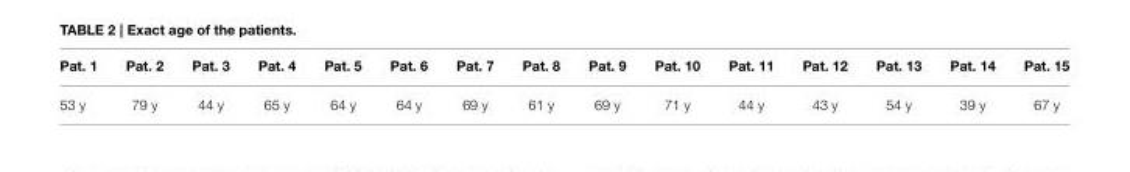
<table><thead><tr><td>Pat. 1</td><td>Pat. 2</td><td>Pat. 3</td><td>Pat. 4</td><td>Pat. 5</td><td>Pat. 6</td><td>Pat. 7</td><td>Pat. 8</td><td>Pat. 9</td><td>Pat. 10</td><td>Pat. 11</td><td>Pat. 12</td><td>Pat. 13</td><td>Pat. 14</td><td>Pat. 15</td></tr></thead><tbody><tr><td>53 y</td><td>79 y</td><td>44 y</td><td>65 y</td><td>64 y</td><td>64 y</td><td>69 y</td><td>61 y</td><td>69 y</td><td>71 y</td><td>44 y</td><td>43 y</td><td>54 y</td><td>39 y</td><td>67 y</td></tr></tbody></table>